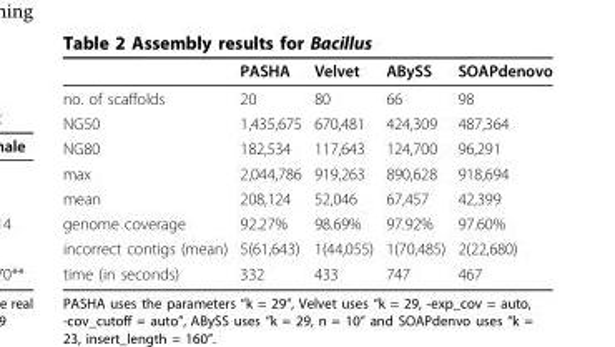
<table><thead><tr><td></td><td>PASHA</td><td>Velvet</td><td>ABySS</td><td>SOAPdenovo</td></tr></thead><tbody><tr><td>no. of scaffolds</td><td>20</td><td>80</td><td>66</td><td>98</td></tr><tr><td>NG50</td><td>1,435,675</td><td>670,481</td><td>424,309</td><td>487,364</td></tr><tr><td>NG80</td><td>182,534</td><td>117,643</td><td>124,700</td><td>96,291</td></tr><tr><td>max</td><td>2,044,786</td><td>919,263</td><td>890,628</td><td>918,694</td></tr><tr><td>mean</td><td>208,124</td><td>52,046</td><td>67,457</td><td>42,399</td></tr><tr><td>genome coverage</td><td>92.27%</td><td>98.69%</td><td>97.92%</td><td>97.60%</td></tr><tr><td>incorrect contigs (mean)</td><td>5(61,643)</td><td>1(44,055)</td><td>1(70,485)</td><td>2(22,680)</td></tr><tr><td>time (in seconds)</td><td>332</td><td>433</td><td>747</td><td>467</td></tr></tbody></table>